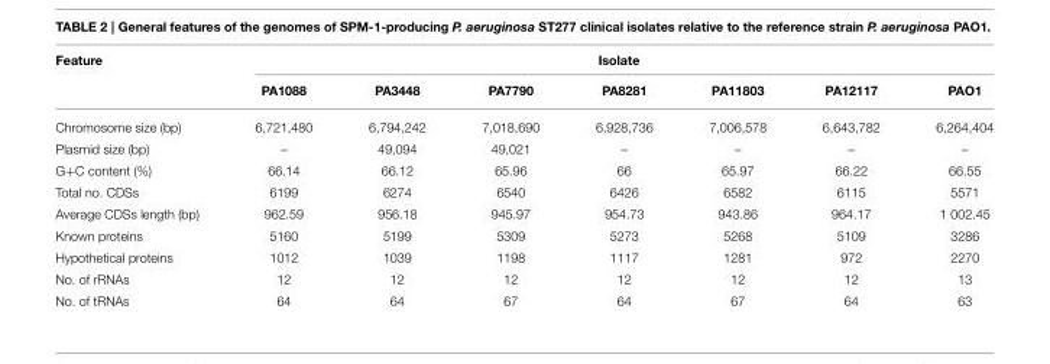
<table><thead><tr><td rowspan="2">Feature</td><td colspan="7">Isolate</td></tr><tr><td>PA1088</td><td>PA3448</td><td>PA7790</td><td>PA8281</td><td>PA11803</td><td>PA12117</td><td>PAO1</td></tr></thead><tbody><tr><td>Chromosome size (bp)</td><td>6,721,480</td><td>6,794,242</td><td>7,018,690</td><td>6,928,736</td><td>7,006,578</td><td>6,643,782</td><td>6,264,404</td></tr><tr><td>Plasmid size (bp)</td><td>–</td><td>49,094</td><td>49,021</td><td>–</td><td>–</td><td>–</td><td>–</td></tr><tr><td>G+C content (%)</td><td>66.14</td><td>66.12</td><td>65.96</td><td>66</td><td>65.97</td><td>66.22</td><td>66.55</td></tr><tr><td>Total no. CDSs</td><td>6199</td><td>6274</td><td>6540</td><td>6426</td><td>6582</td><td>6115</td><td>5571</td></tr><tr><td>Average CDSs length (bp)</td><td>962.59</td><td>956.18</td><td>945.97</td><td>954.73</td><td>943.86</td><td>964.17</td><td>1 002.45</td></tr><tr><td>Known proteins</td><td>5160</td><td>5199</td><td>5309</td><td>5273</td><td>5268</td><td>5109</td><td>3286</td></tr><tr><td>Hypothetical proteins</td><td>1012</td><td>1039</td><td>1198</td><td>1117</td><td>1281</td><td>972</td><td>2270</td></tr><tr><td>No. of rRNAs</td><td>12</td><td>12</td><td>12</td><td>12</td><td>12</td><td>12</td><td>13</td></tr><tr><td>No. of tRNAs</td><td>64</td><td>64</td><td>67</td><td>64</td><td>67</td><td>64</td><td>63</td></tr></tbody></table>